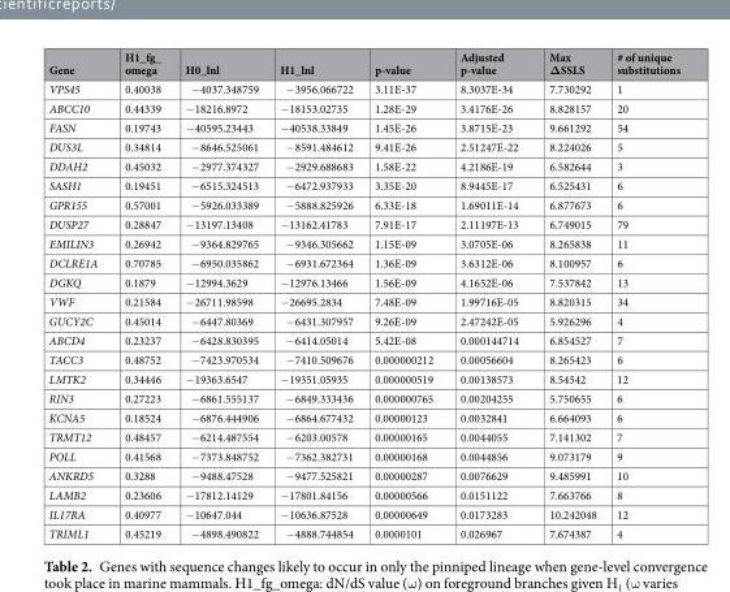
<table><thead><tr><td>Gene</td><td>H1_fg_ omega</td><td>H0_lnl</td><td>H1_lnl</td><td>p-value</td><td>Adjusted p-value</td><td>Max ΔSSLS</td><td># of unique substitutions</td></tr></thead><tbody><tr><td>VPS45</td><td>0.40038</td><td>−4037.348759</td><td>−3956.066722</td><td>3.11E-37</td><td>8.3037E-34</td><td>7.730292</td><td>1</td></tr><tr><td>ABCC10</td><td>0.44339</td><td>−18216.8972</td><td>−18153.02735</td><td>1.28E-29</td><td>3.4176E-26</td><td>8.828157</td><td>20</td></tr><tr><td>FASN</td><td>0.19743</td><td>−40595.23443</td><td>−40538.33849</td><td>1.45E-26</td><td>3.8715E-23</td><td>9.661292</td><td>54</td></tr><tr><td>DUS3L</td><td>0.34814</td><td>−8646.525061</td><td>−8591.484612</td><td>9.41E-26</td><td>2.51247E-22</td><td>8.224026</td><td>5</td></tr><tr><td>DDAH2</td><td>0.45032</td><td>−2977.374327</td><td>−2929.688683</td><td>1.58E-22</td><td>4.2186E-19</td><td>6.582644</td><td>3</td></tr><tr><td>SASH1</td><td>0.19451</td><td>−6515.324513</td><td>−6472.937933</td><td>3.35E-20</td><td>8.9445E-17</td><td>6.525431</td><td>6</td></tr><tr><td>GPR155</td><td>0.57001</td><td>−5926.033389</td><td>−5888.825926</td><td>6.33E-18</td><td>1.69011E-14</td><td>6.877673</td><td>6</td></tr><tr><td>DUSP27</td><td>0.28847</td><td>−13197.13408</td><td>−13162.41783</td><td>7.91E-17</td><td>2.11197E-13</td><td>6.749015</td><td>79</td></tr><tr><td>EMILIN3</td><td>0.26942</td><td>−9364.829765</td><td>−9346.305662</td><td>1.15E-09</td><td>3.0705E-06</td><td>8.265838</td><td>11</td></tr><tr><td>DCLRE1A</td><td>0.70785</td><td>−6950.035862</td><td>−6931.672364</td><td>1.36E-09</td><td>3.6312E-06</td><td>8.100957</td><td>6</td></tr><tr><td>DGKQ</td><td>0.1879</td><td>−12994.3629</td><td>−12976.13466</td><td>1.56E-09</td><td>4.1652E-06</td><td>7.537842</td><td>13</td></tr><tr><td>VWF</td><td>0.21584</td><td>−26711.98598</td><td>−26695.2834</td><td>7.48E-09</td><td>1.99716E-05</td><td>8.820315</td><td>34</td></tr><tr><td>GUCY2C</td><td>0.45014</td><td>−6447.80369</td><td>−6431.307957</td><td>9.26E-09</td><td>2.47242E-05</td><td>5.926296</td><td>4</td></tr><tr><td>ABCD4</td><td>0.23237</td><td>−6428.830395</td><td>−6414.05014</td><td>5.42E-08</td><td>0.000144714</td><td>6.854527</td><td>7</td></tr><tr><td>TACC3</td><td>0.48752</td><td>−7423.970534</td><td>−7410.509676</td><td>0.000000212</td><td>0.00056604</td><td>8.265423</td><td>6</td></tr><tr><td>LMTK2</td><td>0.34446</td><td>−19363.6547</td><td>−19351.05935</td><td>0.000000519</td><td>0.00138573</td><td>8.54542</td><td>12</td></tr><tr><td>RIN3</td><td>0.27223</td><td>−6861.555137</td><td>−6849.333436</td><td>0.000000765</td><td>0.00204255</td><td>5.750655</td><td>6</td></tr><tr><td>KCNA5</td><td>0.18524</td><td>−6876.444906</td><td>−6864.677432</td><td>0.00000123</td><td>0.0032841</td><td>6.664093</td><td>6</td></tr><tr><td>TRMT12</td><td>0.48457</td><td>−6214.487554</td><td>−6203.00578</td><td>0.00000165</td><td>0.0044055</td><td>7.141302</td><td>7</td></tr><tr><td>POLL</td><td>0.41568</td><td>−7373.848752</td><td>−7362.382731</td><td>0.00000168</td><td>0.0044856</td><td>9.073179</td><td>9</td></tr><tr><td>ANKRD5</td><td>0.3288</td><td>−9488.47528</td><td>−9477.525821</td><td>0.00000287</td><td>0.0076629</td><td>9.485991</td><td>10</td></tr><tr><td>LAMB2</td><td>0.23606</td><td>−17812.14129</td><td>−17801.84156</td><td>0.00000566</td><td>0.0151122</td><td>7.663766</td><td>8</td></tr><tr><td>IL17RA</td><td>0.40977</td><td>−10647.044</td><td>−10636.87528</td><td>0.00000649</td><td>0.0173283</td><td>10.242048</td><td>12</td></tr><tr><td>TRIML1</td><td>0.45219</td><td>−4898.490822</td><td>−4888.744854</td><td>0.0000101</td><td>0.026967</td><td>7.674387</td><td>4</td></tr></tbody></table>